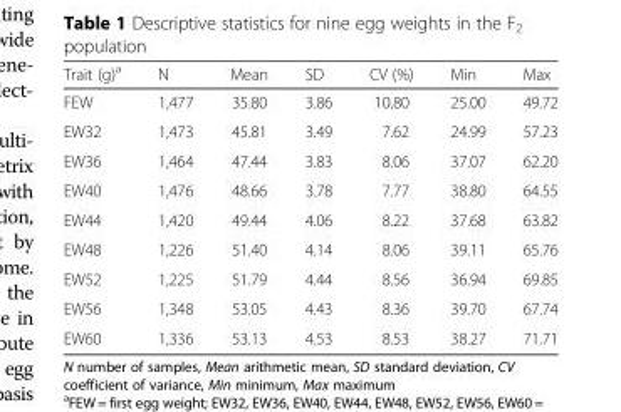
<table><thead><tr><td>Trait (g)<sup>a</sup></td><td>N</td><td>Mean</td><td>SD</td><td>CV (%)</td><td>Min</td><td>Max</td></tr></thead><tbody><tr><td>FEW</td><td>1,477</td><td>35.80</td><td>3.86</td><td>10.80</td><td>25.00</td><td>49.72</td></tr><tr><td>EW32</td><td>1,473</td><td>45.81</td><td>3.49</td><td>7.62</td><td>24.99</td><td>57.23</td></tr><tr><td>EW36</td><td>1,464</td><td>47.44</td><td>3.83</td><td>8.06</td><td>37.07</td><td>62.20</td></tr><tr><td>EW40</td><td>1,476</td><td>48.66</td><td>3.78</td><td>7.77</td><td>38.80</td><td>64.55</td></tr><tr><td>EW44</td><td>1,420</td><td>49.44</td><td>4.06</td><td>8.22</td><td>37.68</td><td>63.82</td></tr><tr><td>EW48</td><td>1,226</td><td>51.40</td><td>4.14</td><td>8.06</td><td>39.11</td><td>65.76</td></tr><tr><td>EW52</td><td>1,225</td><td>51.79</td><td>4.44</td><td>8.56</td><td>36.94</td><td>69.85</td></tr><tr><td>EW56</td><td>1,348</td><td>53.05</td><td>4.43</td><td>8.36</td><td>39.70</td><td>67.74</td></tr><tr><td>EW60</td><td>1,336</td><td>53.13</td><td>4.53</td><td>8.53</td><td>38.27</td><td>71.71</td></tr></tbody></table>